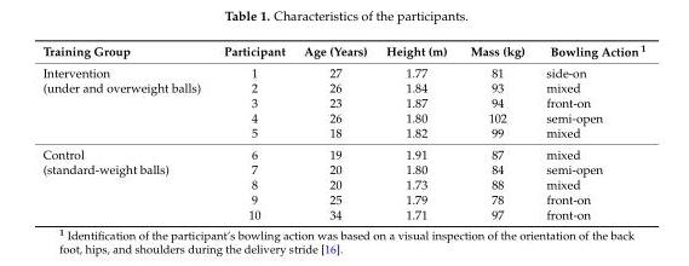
<table><thead><tr><td>Training Group</td><td>Participant</td><td>Age (Years)</td><td>Height (m)</td><td>Mass (kg)</td><td>Bowling Action <sup>1</sup></td></tr></thead><tbody><tr><td>Intervention</td><td>1</td><td>27</td><td>1.77</td><td>81</td><td>side-on</td></tr><tr><td rowspan="4">(under and overweight balls)</td><td>2</td><td>26</td><td>1.84</td><td>93</td><td>mixed</td></tr><tr><td>3</td><td>23</td><td>1.87</td><td>94</td><td>front-on</td></tr><tr><td>4</td><td>26</td><td>1.80</td><td>102</td><td>semi-open</td></tr><tr><td>5</td><td>18</td><td>1.82</td><td>99</td><td>mixed</td></tr><tr><td>Control</td><td>6</td><td>19</td><td>1.91</td><td>87</td><td>mixed</td></tr><tr><td rowspan="4">(standard-weight balls)</td><td>7</td><td>20</td><td>1.80</td><td>84</td><td>semi-open</td></tr><tr><td>8</td><td>20</td><td>1.73</td><td>88</td><td>mixed</td></tr><tr><td>9</td><td>25</td><td>1.79</td><td>78</td><td>front-on</td></tr><tr><td>10</td><td>34</td><td>1.71</td><td>97</td><td>front-on</td></tr></tbody></table>